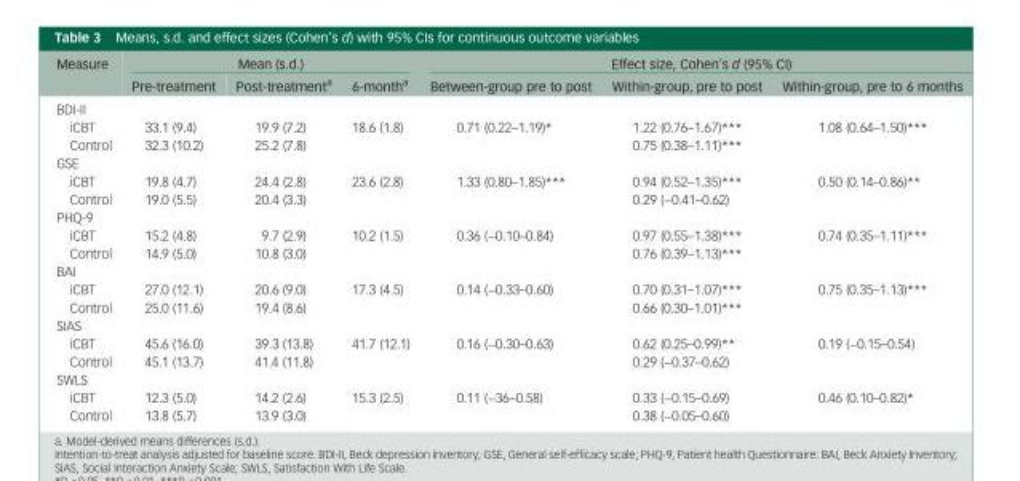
<table><thead><tr><td rowspan="2">Measure</td><td colspan="3">Mean (s.d.)</td><td colspan="3">Effect size, Cohen’s d (95% CI)</td></tr><tr><td>Pre-treatment</td><td>Post-treatment<sup>a</sup></td><td>6-month<sup>a</sup></td><td>Between-group pre to post</td><td>Within-group, pre to post</td><td>Within-group, pre to 6 months</td></tr></thead><tbody><tr><td colspan="7">BDI-II</td></tr><tr><td>iCBT</td><td>33.1 (9.4)</td><td>19.9 (7.2)</td><td>18.6 (1.8)</td><td>0.71 (0.22–1.19)*</td><td>1.22 (0.76–1.67)***</td><td>1.08 (0.64–1.50)***</td></tr><tr><td>Control</td><td>32.3 (10.2)</td><td>25.2 (7.8)</td><td></td><td></td><td>0.75 (0.38–1.11)***</td><td></td></tr><tr><td colspan="7">GSE</td></tr><tr><td>iCBT</td><td>19.8 (4.7)</td><td>24.4 (2.8)</td><td>23.6 (2.8)</td><td>1.33 (0.80–1.85)***</td><td>0.94 (0.52–1.35)***</td><td>0.50 (0.14–0.86)**</td></tr><tr><td>Control</td><td>19.0 (5.5)</td><td>20.4 (3.3)</td><td></td><td></td><td>0.29 (−0.41–0.62)</td><td></td></tr><tr><td colspan="7">PHQ-9</td></tr><tr><td>iCBT</td><td>15.2 (4.8)</td><td>9.7 (2.9)</td><td>10.2 (1.5)</td><td>0.36 (−0.10–0.84)</td><td>0.97 (0.55–1.38)***</td><td>0.74 (0.35–1.11)***</td></tr><tr><td>Control</td><td>14.9 (5.0)</td><td>10.8 (3.0)</td><td></td><td></td><td>0.76 (0.39–1.13)***</td><td></td></tr><tr><td colspan="7">BAI</td></tr><tr><td>iCBT</td><td>27.0 (12.1)</td><td>20.6 (9.0)</td><td>17.3 (4.5)</td><td>0.14 (−0.33–0.60)</td><td>0.70 (0.31–1.07)***</td><td>0.75 (0.35–1.13)***</td></tr><tr><td>Control</td><td>25.0 (11.6)</td><td>19.4 (8.6)</td><td></td><td></td><td>0.66 (0.30–1.01)***</td><td></td></tr><tr><td colspan="7">SIAS</td></tr><tr><td>iCBT</td><td>45.6 (16.0)</td><td>39.3 (13.8)</td><td>41.7 (12.1)</td><td>0.16 (−0.30–0.63)</td><td>0.62 (0.25–0.99)**</td><td>0.19 (−0.15–0.54)</td></tr><tr><td>Control</td><td>45.1 (13.7)</td><td>41.4 (11.8)</td><td></td><td></td><td>0.29 (−0.37–0.62)</td><td></td></tr><tr><td colspan="7">SWLS</td></tr><tr><td>iCBT</td><td>12.3 (5.0)</td><td>14.2 (2.6)</td><td>15.3 (2.5)</td><td>0.11 (−36–0.58)</td><td>0.33 (−0.15–0.69)</td><td>0.46 (0.10–0.82)*</td></tr><tr><td>Control</td><td>13.8 (5.7)</td><td>13.9 (3.0)</td><td></td><td></td><td>0.38 (−0.05–0.60)</td><td></td></tr></tbody></table>